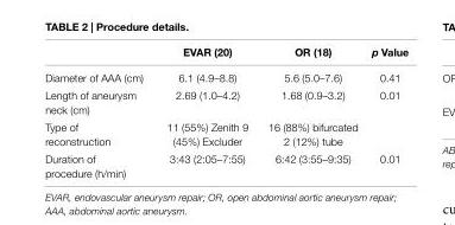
<table><thead><tr><td></td><td>eVar (20)</td><td>Or (18)</td><td>p Value</td></tr></thead><tbody><tr><td>Diameter of AAA (cm)</td><td>6.1 (4.9–8.8)</td><td>5.6 (5.0–7.6)</td><td>0.41</td></tr><tr><td>Length of aneurysm neck (cm)</td><td>2.69 (1.0–4.2)</td><td>1.68 (0.9–3.2)</td><td>0.01</td></tr><tr><td>Type of reconstruction</td><td>11 (55%) Zenith 9 (45%) Excluder</td><td>16 (88%) bifurcated 2 (12%) tube</td><td></td></tr><tr><td>Duration of procedure (h/min)</td><td>3:43 (2:05–7:55)</td><td>6:42 (3:55–9:35)</td><td>0.01</td></tr></tbody></table>